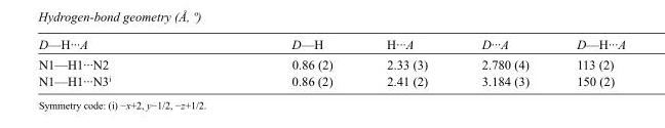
<table><tbody><tr><td>D—H···A</td><td>D—H</td><td>H···A</td><td>D···A</td><td>D—H···A</td></tr><tr><td>N1—H1···N2</td><td>0.86 (2)</td><td>2.33 (3)</td><td>2.780 (4)</td><td>113 (2)</td></tr><tr><td>N1—H1···N3<sup>i</sup></td><td>0.86 (2)</td><td>2.41 (2)</td><td>3.184 (3)</td><td>150 (2)</td></tr></tbody></table>